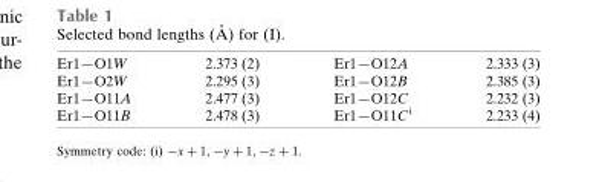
<table><tbody><tr><td>Er1—O1W</td><td>2.373 (2)</td><td>Er1—O12A</td><td>2.333 (3)</td></tr><tr><td>Er1—O2W</td><td>2.295 (3)</td><td>Er1—O12B</td><td>2.385 (3)</td></tr><tr><td>Er1—O11A</td><td>2.477 (3)</td><td>Er1—O12C</td><td>2.232 (3)</td></tr><tr><td>Er1—O11B</td><td>2.478 (3)</td><td>Er1—O11C <sup>i</sup></td><td>2.233 (4)</td></tr></tbody></table>